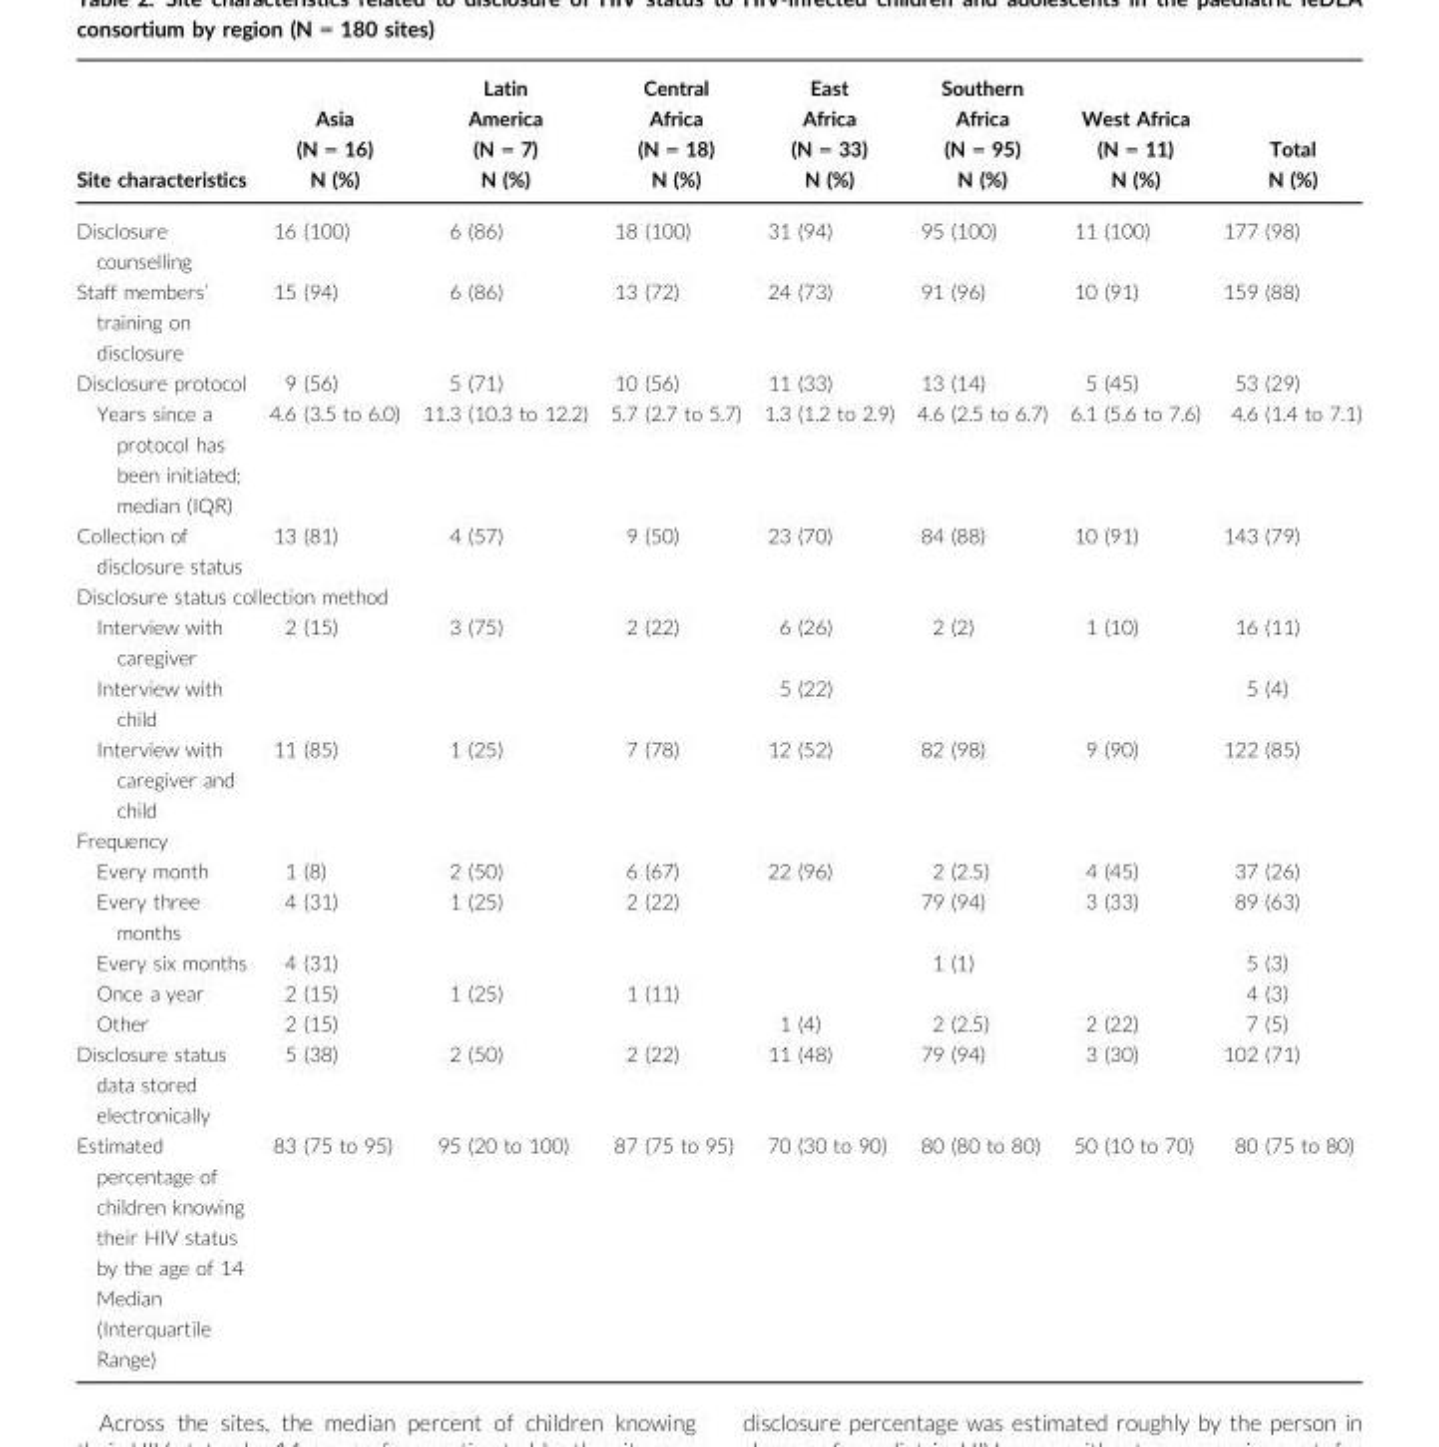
<table><thead><tr><td rowspan="2">Site characteristics</td><td rowspan="2">Asia (N = 16) N (%)</td><td rowspan="2">Latin America (N = 7) N (%)</td><td rowspan="2">Central Africa (N = 18) N (%)</td><td rowspan="2">East Africa (N = 33) N (%)</td><td rowspan="2">Southern Africa (N = 95) N (%)</td><td rowspan="2">West Africa (N = 11) N (%)</td><td rowspan="2">Total N (%)</td></tr><tr></tr></thead><tbody><tr><td>Disclosure counselling</td><td>16 (100)</td><td>6 (86)</td><td>18 (100)</td><td>31 (94)</td><td>95 (100)</td><td>11 (100)</td><td>177 (98)</td></tr><tr><td>Staff members’ training on disclosure</td><td>15 (94)</td><td>6 (86)</td><td>13 (72)</td><td>24 (73)</td><td>91 (96)</td><td>10 (91)</td><td>159 (88)</td></tr><tr><td>Disclosure protocol</td><td>9 (56)</td><td>5 (71)</td><td>10 (56)</td><td>11 (33)</td><td>13 (14)</td><td>5 (45)</td><td>53 (29)</td></tr><tr><td>Years since a protocol has been initiated; median (IQR)</td><td>4.6 (3.5 to 6.0)</td><td>11.3 (10.3 to 12.2)</td><td>5.7 (2.7 to 5.7)</td><td>1.3 (1.2 to 2.9)</td><td>4.6 (2.5 to 6.7)</td><td>6.1 (5.6 to 7.6)</td><td>4.6 (1.4 to 7.1)</td></tr><tr><td>Collection of disclosure status</td><td>13 (81)</td><td>4 (57)</td><td>9 (50)</td><td>23 (70)</td><td>84 (88)</td><td>10 (91)</td><td>143 (79)</td></tr><tr><td colspan="8">Disclosure status collection method</td></tr><tr><td>Interview with caregiver</td><td>2 (15)</td><td>3 (75)</td><td>2 (22)</td><td>6 (26)</td><td>2 (2)</td><td>1 (10)</td><td>16 (11)</td></tr><tr><td>Interview with child</td><td></td><td></td><td></td><td>5 (22)</td><td></td><td></td><td>5 (4)</td></tr><tr><td>Interview with caregiver and child</td><td>11 (85)</td><td>1 (25)</td><td>7 (78)</td><td>12 (52)</td><td>82 (98)</td><td>9 (90)</td><td>122 (85)</td></tr><tr><td colspan="8">Frequency</td></tr><tr><td>Every month</td><td>1 (8)</td><td>2 (50)</td><td>6 (67)</td><td>22 (96)</td><td>2 (2.5)</td><td>4 (45)</td><td>37 (26)</td></tr><tr><td>Every three months</td><td>4 (31)</td><td>1 (25)</td><td>2 (22)</td><td></td><td>79 (94)</td><td>3 (33)</td><td>89 (63)</td></tr><tr><td>Every six months</td><td>4 (31)</td><td></td><td></td><td></td><td>1 (1)</td><td></td><td>5 (3)</td></tr><tr><td>Once a year</td><td>2 (15)</td><td>1 (25)</td><td>1 (11)</td><td></td><td></td><td></td><td>4 (3)</td></tr><tr><td>Other</td><td>2 (15)</td><td></td><td></td><td>1 (4)</td><td>2 (2.5)</td><td>2 (22)</td><td>7 (5)</td></tr><tr><td>Disclosure status data stored electronically</td><td>5 (38)</td><td>2 (50)</td><td>2 (22)</td><td>11 (48)</td><td>79 (94)</td><td>3 (30)</td><td>102 (71)</td></tr><tr><td>Estimated percentage of children knowing their HIV status by the age of 14 Median (Interquartile Range)</td><td>83 (75 to 95)</td><td>95 (20 to 100)</td><td>87 (75 to 95)</td><td>70 (30 to 90)</td><td>80 (80 to 80)</td><td>50 (10 to 70)</td><td>80 (75 to 80)</td></tr></tbody></table>